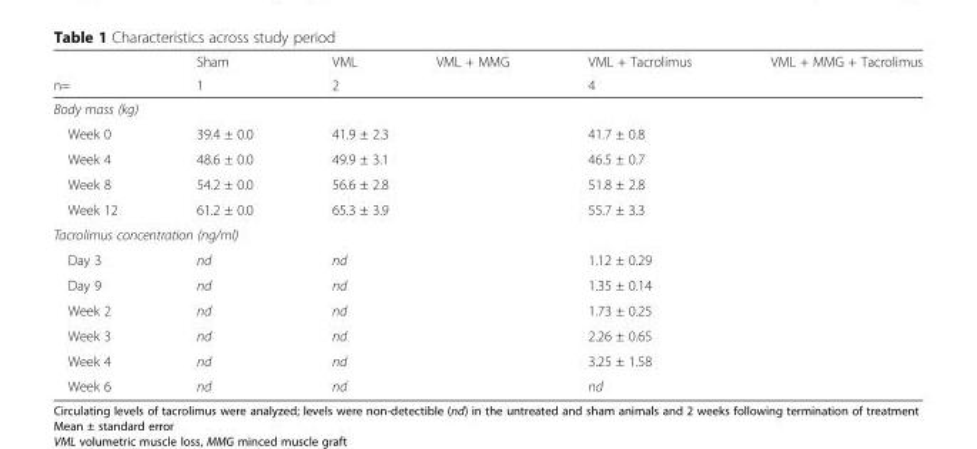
<table><thead><tr><td rowspan="2">n=</td><td rowspan="2">Sham 1</td><td>VML</td><td>VML + MMG</td><td>VML + Tacrolimus</td><td>VML + MMG + Tacrolimus</td></tr><tr><td colspan="2">2</td><td colspan="2">4</td></tr></thead><tbody><tr><td colspan="6">Body mass (kg)</td></tr><tr><td>Week 0</td><td>39.4 ± 0.0</td><td colspan="2">41.9 ± 2.3</td><td colspan="2">41.7 ± 0.8</td></tr><tr><td>Week 4</td><td>48.6 ± 0.0</td><td colspan="2">49.9 ± 3.1</td><td colspan="2">46.5 ± 0.7</td></tr><tr><td>Week 8</td><td>54.2 ± 0.0</td><td colspan="2">56.6 ± 2.8</td><td colspan="2">51.8 ± 2.8</td></tr><tr><td>Week 12</td><td>61.2 ± 0.0</td><td colspan="2">65.3 ± 3.9</td><td colspan="2">55.7 ± 3.3</td></tr><tr><td colspan="6">Tacrolimus concentration (ng/ml)</td></tr><tr><td>Day 3</td><td>nd</td><td colspan="2">nd</td><td colspan="2">1.12 ± 0.29</td></tr><tr><td>Day 9</td><td>nd</td><td colspan="2">nd</td><td colspan="2">1.35 ± 0.14</td></tr><tr><td>Week 2</td><td>nd</td><td colspan="2">nd</td><td colspan="2">1.73 ± 0.25</td></tr><tr><td>Week 3</td><td>nd</td><td colspan="2">nd</td><td colspan="2">2.26 ± 0.65</td></tr><tr><td>Week 4</td><td>nd</td><td colspan="2">nd</td><td colspan="2">3.25 ± 1.58</td></tr><tr><td>Week 6</td><td>nd</td><td colspan="2">nd</td><td colspan="2">nd</td></tr></tbody></table>